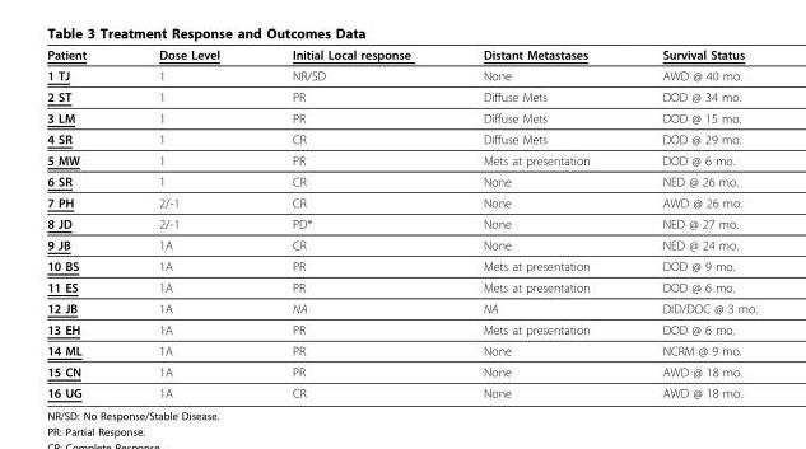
<table><thead><tr><td>Patient</td><td>Dose Level</td><td>Initial Local response</td><td>Distant Metastases</td><td>Survival Status</td></tr></thead><tbody><tr><td>1 TJ</td><td>1</td><td>NR/SD</td><td>None</td><td>AWD @ 40 mo.</td></tr><tr><td>2 ST</td><td>1</td><td>PR</td><td>Diffuse Mets</td><td>DOD @ 34 mo.</td></tr><tr><td>3 LM</td><td>1</td><td>PR</td><td>Diffuse Mets</td><td>DOD @ 15 mo.</td></tr><tr><td>4 SR</td><td>1</td><td>CR</td><td>Diffuse Mets</td><td>DOD @ 29 mo.</td></tr><tr><td>5 MW</td><td>1</td><td>PR</td><td>Mets at presentation</td><td>DOD @ 6 mo.</td></tr><tr><td>6 SR</td><td>1</td><td>CR</td><td>None</td><td>NED @ 26 mo.</td></tr><tr><td>7 PH</td><td>2/-1</td><td>CR</td><td>None</td><td>AWD @ 26 mo.</td></tr><tr><td>8 JD</td><td>2/-1</td><td>PD*</td><td>None</td><td>NED @ 27 mo.</td></tr><tr><td>9 JB</td><td>1A</td><td>CR</td><td>None</td><td>NED @ 24 mo.</td></tr><tr><td>10 BS</td><td>1A</td><td>PR</td><td>Mets at presentation</td><td>DOD @ 9 mo.</td></tr><tr><td>11 ES</td><td>1A</td><td>PR</td><td>Mets at presentation</td><td>DOD @ 6 mo.</td></tr><tr><td>12 JB</td><td>1A</td><td>NA</td><td>NA</td><td>DID/DOC @ 3 mo.</td></tr><tr><td>13 EH</td><td>1A</td><td>PR</td><td>Mets at presentation</td><td>DOD @ 6 mo.</td></tr><tr><td>14 ML</td><td>1A</td><td>PR</td><td>None</td><td>NCRM @ 9 mo.</td></tr><tr><td>15 CN</td><td>1A</td><td>PR</td><td>None</td><td>AWD @ 18 mo.</td></tr><tr><td>16 UG</td><td>1A</td><td>CR</td><td>None</td><td>AWD @ 18 mo.</td></tr></tbody></table>